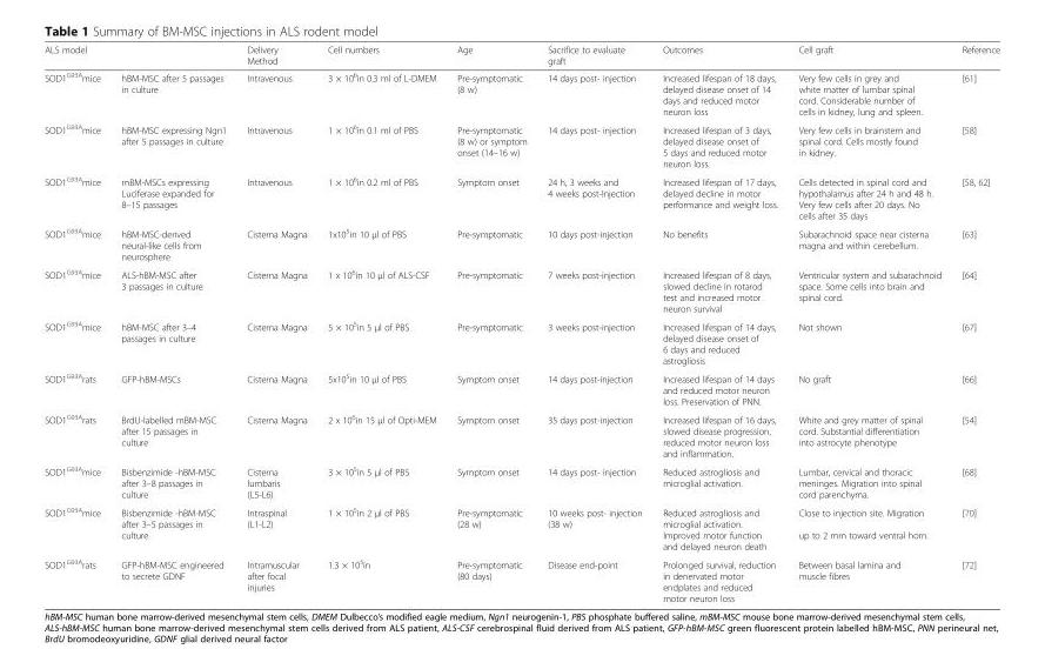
<table><thead><tr><td>ALS model</td><td></td><td>Delivery Method</td><td>Cell numbers</td><td>Age</td><td>Sacrifice to evaluate graft</td><td>Outcomes</td><td>Cell graft</td><td>Reference</td></tr></thead><tbody><tr><td>SOD1<sup>G93A</sup>mice</td><td>hBM-MSC after 5 passages in culture</td><td>Intravenous</td><td>3 × 10<sup>6</sup>in 0.3 ml of L-DMEM</td><td>Pre-symptomatic (8 w)</td><td>14 days post- injection</td><td>Increased lifespan of 18 days, delayed disease onset of 14 days and reduced motor neuron loss</td><td>Very few cells in grey and white matter of lumbar spinal cord. Considerable number of cells in kidney, lung and spleen.</td><td>[61]</td></tr><tr><td>SOD1<sup>G93A</sup>mice</td><td>hBM-MSC expressing Ngn1 after 5 passages in culture</td><td>Intravenous</td><td>1 × 10<sup>6</sup>in 0.1 ml of PBS</td><td>Pre-symptomatic (8 w) or symptom onset (14–16 w)</td><td>14 days post- injection</td><td>Increased lifespan of 3 days, delayed disease onset of 5 days and reduced motor neuron loss.</td><td>Very few cells in brainstem and spinal cord. Cells mostly found in kidney.</td><td>[58]</td></tr><tr><td>SOD1<sup>G93A</sup>mice</td><td>mBM-MSCs expressing Luciferase expanded for 8–15 passages</td><td>Intravenous</td><td>1 × 10<sup>6</sup>in 0.2 ml of PBS</td><td>Symptom onset</td><td>24 h, 3 weeks and 4 weeks post-Injection</td><td>Increased lifespan of 17 days, delayed decline in motor performance and weight loss.</td><td>Cells detected in spinal cord and hypothalamus after 24 h and 48 h. Very few cells after 20 days. No cells after 35 days</td><td>[58, 62]</td></tr><tr><td>SOD1<sup>G93A</sup>mice</td><td>hBM-MSC-derived neural-like cells from neurosphere</td><td>Cisterna Magna</td><td>1x10<sup>5</sup>in 10 μl of PBS</td><td>Pre-symptomatic</td><td>10 days post-injection</td><td>No benefits</td><td>Subarachnoid space near cisterna magna and within cerebellum.</td><td>[63]</td></tr><tr><td>SOD1<sup>G93A</sup>mice</td><td>ALS-hBM-MSC after 3 passages in culture</td><td>Cisterna Magna</td><td>1 x 10<sup>6</sup>in 10 μl of ALS-CSF</td><td>Pre-symptomatic</td><td>7 weeks post-injection</td><td>Increased lifespan of 8 days, slowed decline in rotarod test and increased motor neuron survival</td><td>Ventricular system and subarachnoid space. Some cells into brain and spinal cord.</td><td>[64]</td></tr><tr><td>SOD1<sup>G93A</sup>mice</td><td>hBM-MSC after 3–4 passages in culture</td><td>Cisterna Magna</td><td>5 × 10<sup>5</sup>in 5 μl of PBS</td><td>Pre-symptomatic</td><td>3 weeks post-injection</td><td>Increased lifespan of 14 days, delayed disease onset of 6 days and reduced astrogliosis</td><td>Not shown</td><td>[67]</td></tr><tr><td>SOD1<sup>G93A</sup>rats</td><td>GFP-hBM-MSCs</td><td>Cisterna Magna</td><td>5x10<sup>5</sup>in 10 μl of PBS</td><td>Symptom onset</td><td>14 days post-injection</td><td>Increased lifespan of 14 days and reduced motor neuron loss. Preservation of PNN.</td><td>No graft</td><td>[66]</td></tr><tr><td>SOD1<sup>G93A</sup>rats</td><td>BrdU-labelled mBM-MSC after 15 passages in culture</td><td>Cisterna Magna</td><td>2 x 10<sup>6</sup>in 15 μl of Opti-MEM</td><td>Symptom onset</td><td>35 days post-injection</td><td>Increased lifespan of 16 days, slowed disease progression, reduced motor neuron loss and inflammation.</td><td>White and grey matter of spinal cord. Substantial differentiation into astrocyte phenotype</td><td>[54]</td></tr><tr><td>SOD1<sup>G93A</sup>mice</td><td>Bisbenzimide -hBM-MSC after 3–8 passages in culture</td><td>Cisterna lumbaris (L5-L6)</td><td>3 × 10<sup>5</sup>in 5 μl of PBS</td><td>Symptom onset</td><td>14 days post- injection</td><td>Reduced astrogliosis and microglial activation.</td><td>Lumbar, cervical and thoracic meninges. Migration into spinal cord parenchyma.</td><td>[68]</td></tr><tr><td>SOD1<sup>G93A</sup>mice</td><td>Bisbenzimide -hBM-MSC after 3–5 passages in culture</td><td>Intraspinal (L1-L2)</td><td>1 × 10<sup>5</sup>in 2 μl of PBS</td><td>Pre-symptomatic (28 w)</td><td>10 weeks post- injection (38 w)</td><td>Reduced astrogliosis and microglial activation. Improved motor function and delayed neuron death</td><td>Close to injection site. Migration up to 2 mm toward ventral horn.</td><td>[70]</td></tr><tr><td>SOD1<sup>G93A</sup>rats</td><td>GFP-hBM-MSC engineered to secrete GDNF</td><td>Intramuscular after focal injuries</td><td>1.3 × 10<sup>5</sup>in</td><td>Pre-symptomatic (80 days)</td><td>Disease end-point</td><td>Prolonged survival, reduction in denervated motor endplates and reduced motor neuron loss</td><td>Between basal lamina and muscle fibres</td><td>[72]</td></tr></tbody></table>